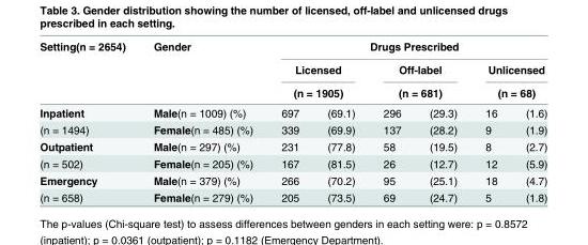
<table><thead><tr><td rowspan="4">Setting(n = 2654) Inpatient</td><td rowspan="4">Gender Male(n = 1009) (%)</td><td colspan="6">Drugs Prescribed</td></tr><tr><td rowspan="2" colspan="2">Licensed (n = 1905)</td><td rowspan="2" colspan="2">Off-label (n = 681)</td><td rowspan="2" colspan="2">Unlicensed (n = 68)</td></tr><tr></tr><tr><td>697</td><td>(69.1)</td><td>296</td><td>(29.3)</td><td>16</td><td>(1.6)</td></tr></thead><tbody><tr><td>(n = 1494)</td><td>Female(n = 485) (%)</td><td>339</td><td>(69.9)</td><td>137</td><td>(28.2)</td><td>9</td><td>(1.9)</td></tr><tr><td>Outpatient</td><td>Male(n = 297) (%)</td><td>231</td><td>(77.8)</td><td>58</td><td>(19.5)</td><td>8</td><td>(2.7)</td></tr><tr><td>(n = 502)</td><td>Female(n = 205) (%)</td><td>167</td><td>(81.5)</td><td>26</td><td>(12.7)</td><td>12</td><td>(5.9)</td></tr><tr><td>Emergency</td><td>Male(n = 379) (%)</td><td>266</td><td>(70.2)</td><td>95</td><td>(25.1)</td><td>18</td><td>(4.7)</td></tr><tr><td>(n = 658)</td><td>Female(n = 279) (%)</td><td>205</td><td>(73.5)</td><td>69</td><td>(24.7)</td><td>5</td><td>(1.8)</td></tr></tbody></table>